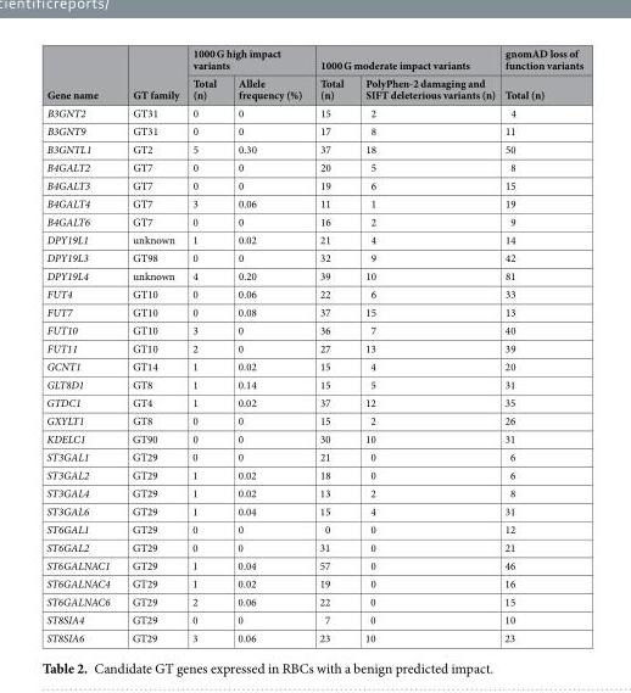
<table><thead><tr><td rowspan="2">Gene name</td><td rowspan="2">GT family</td><td colspan="2">1000 G high impact variants</td><td colspan="2">1000 G moderate impact variants</td><td rowspan="2">gnomAD loss of function variants Total (n)</td></tr><tr><td>Total (n)</td><td>Allele frequency (%)</td><td>Total (n)</td><td>PolyPhen-2 damaging and SIFT deleterious variants (n)</td></tr></thead><tbody><tr><td>B3GNT2</td><td>GT31</td><td>0</td><td>0</td><td>15</td><td>2</td><td>4</td></tr><tr><td>B3GNT9</td><td>GT31</td><td>0</td><td>0</td><td>17</td><td>8</td><td>11</td></tr><tr><td>B3GNTL1</td><td>GT2</td><td>5</td><td>0.30</td><td>37</td><td>18</td><td>50</td></tr><tr><td>B4GALT2</td><td>GT7</td><td>0</td><td>0</td><td>20</td><td>5</td><td>8</td></tr><tr><td>B4GALT3</td><td>GT7</td><td>0</td><td>0</td><td>19</td><td>6</td><td>15</td></tr><tr><td>B4GALT4</td><td>GT7</td><td>3</td><td>0.06</td><td>11</td><td>1</td><td>19</td></tr><tr><td>B4GALT6</td><td>GT7</td><td>0</td><td>0</td><td>16</td><td>2</td><td>9</td></tr><tr><td>DPY19L1</td><td>unknown</td><td>1</td><td>0.02</td><td>21</td><td>4</td><td>14</td></tr><tr><td>DPY19L3</td><td>GT98</td><td>0</td><td>0</td><td>32</td><td>9</td><td>42</td></tr><tr><td>DPY19L4</td><td>unknown</td><td>4</td><td>0.20</td><td>39</td><td>10</td><td>81</td></tr><tr><td>FUT4</td><td>GT10</td><td>0</td><td>0.06</td><td>22</td><td>6</td><td>33</td></tr><tr><td>FUT7</td><td>GT10</td><td>0</td><td>0.08</td><td>37</td><td>15</td><td>13</td></tr><tr><td>FUT10</td><td>GT10</td><td>3</td><td>0</td><td>36</td><td>7</td><td>40</td></tr><tr><td>FUT11</td><td>GT10</td><td>2</td><td>0</td><td>27</td><td>13</td><td>39</td></tr><tr><td>GCNT1</td><td>GT14</td><td>1</td><td>0.02</td><td>15</td><td>4</td><td>20</td></tr><tr><td>GLT8D1</td><td>GT8</td><td>1</td><td>0.14</td><td>15</td><td>5</td><td>31</td></tr><tr><td>GTDC1</td><td>GT4</td><td>1</td><td>0.02</td><td>37</td><td>12</td><td>35</td></tr><tr><td>GXYLT1</td><td>GT8</td><td>0</td><td>0</td><td>15</td><td>2</td><td>26</td></tr><tr><td>KDELC1</td><td>GT90</td><td>0</td><td>0</td><td>30</td><td>10</td><td>31</td></tr><tr><td>ST3GAL1</td><td>GT29</td><td>0</td><td>0</td><td>21</td><td>0</td><td>6</td></tr><tr><td>ST3GAL2</td><td>GT29</td><td>1</td><td>0.02</td><td>18</td><td>0</td><td>6</td></tr><tr><td>ST3GAL4</td><td>GT29</td><td>1</td><td>0.02</td><td>13</td><td>2</td><td>8</td></tr><tr><td>ST3GAL6</td><td>GT29</td><td>1</td><td>0.04</td><td>15</td><td>4</td><td>31</td></tr><tr><td>ST6GAL1</td><td>GT29</td><td>0</td><td>0</td><td>0</td><td>0</td><td>12</td></tr><tr><td>ST6GAL2</td><td>GT29</td><td>0</td><td>0</td><td>31</td><td>0</td><td>21</td></tr><tr><td>ST6GALNAC1</td><td>GT29</td><td>1</td><td>0.04</td><td>57</td><td>0</td><td>46</td></tr><tr><td>ST6GALNAC4</td><td>GT29</td><td>1</td><td>0.02</td><td>19</td><td>0</td><td>16</td></tr><tr><td>ST6GALNAC6</td><td>GT29</td><td>2</td><td>0.06</td><td>22</td><td>0</td><td>15</td></tr><tr><td>ST8SIA4</td><td>GT29</td><td>0</td><td>0</td><td>7</td><td>0</td><td>10</td></tr><tr><td>ST8SIA6</td><td>GT29</td><td>3</td><td>0.06</td><td>23</td><td>10</td><td>23</td></tr></tbody></table>